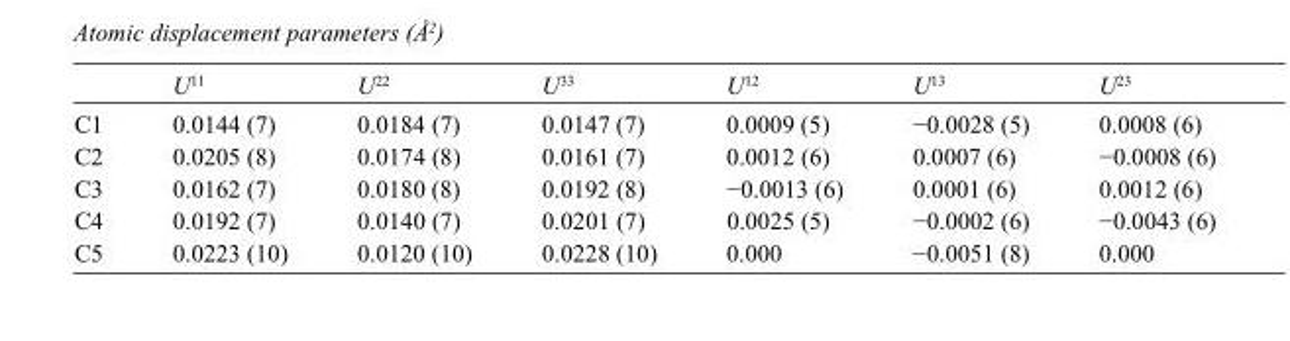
<table><thead><tr><td></td><td>U<sup>11</sup></td><td>U<sup>22</sup></td><td>U<sup>33</sup></td><td>U<sup>12</sup></td><td>U<sup>13</sup></td><td>U<sup>23</sup></td></tr></thead><tbody><tr><td>C1</td><td>0.0144 (7)</td><td>0.0184 (7)</td><td>0.0147 (7)</td><td>0.0009 (5)</td><td>−0.0028 (5)</td><td>0.0008 (6)</td></tr><tr><td>C2</td><td>0.0205 (8)</td><td>0.0174 (8)</td><td>0.0161 (7)</td><td>0.0012 (6)</td><td>0.0007 (6)</td><td>−0.0008 (6)</td></tr><tr><td>C3</td><td>0.0162 (7)</td><td>0.0180 (8)</td><td>0.0192 (8)</td><td>−0.0013 (6)</td><td>0.0001 (6)</td><td>0.0012 (6)</td></tr><tr><td>C4</td><td>0.0192 (7)</td><td>0.0140 (7)</td><td>0.0201 (7)</td><td>0.0025 (5)</td><td>−0.0002 (6)</td><td>−0.0043 (6)</td></tr><tr><td>C5</td><td>0.0223 (10)</td><td>0.0120 (10)</td><td>0.0228 (10)</td><td>0.000</td><td>−0.0051 (8)</td><td>0.000</td></tr></tbody></table>